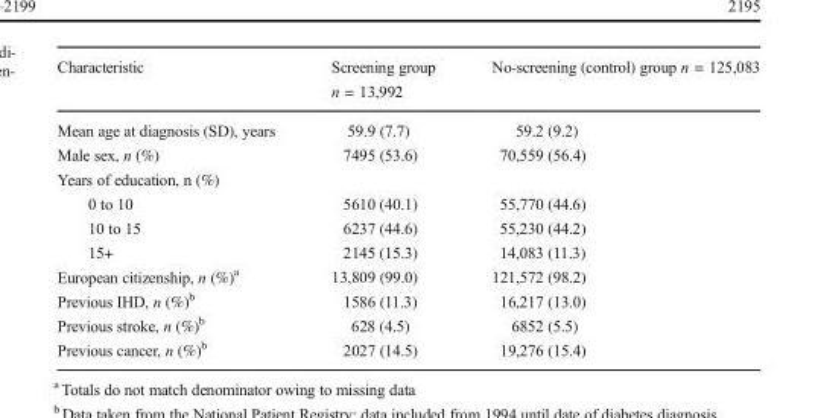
<table><thead><tr><td>Characteristic</td><td>Screening group n = 13,992</td><td>No-screening (control) group n = 125,083</td></tr></thead><tbody><tr><td>Mean age at diagnosis (SD), years</td><td>59.9 (7.7)</td><td>59.2 (9.2)</td></tr><tr><td>Male sex, n (%)</td><td>7495 (53.6)</td><td>70,559 (56.4)</td></tr><tr><td colspan="3">Years of education, n (%)</td></tr><tr><td>0 to 10</td><td>5610 (40.1)</td><td>55,770 (44.6)</td></tr><tr><td>10 to 15</td><td>6237 (44.6)</td><td>55,230 (44.2)</td></tr><tr><td>15+</td><td>2145 (15.3)</td><td>14,083 (11.3)</td></tr><tr><td>European citizenship, n (%)<sup>a</sup></td><td>13,809 (99.0)</td><td>121,572 (98.2)</td></tr><tr><td>Previous IHD, n (%)<sup>b</sup></td><td>1586 (11.3)</td><td>16,217 (13.0)</td></tr><tr><td>Previous stroke, n (%)<sup>b</sup></td><td>628 (4.5)</td><td>6852 (5.5)</td></tr><tr><td>Previous cancer, n (%)<sup>b</sup></td><td>2027 (14.5)</td><td>19,276 (15.4)</td></tr></tbody></table>